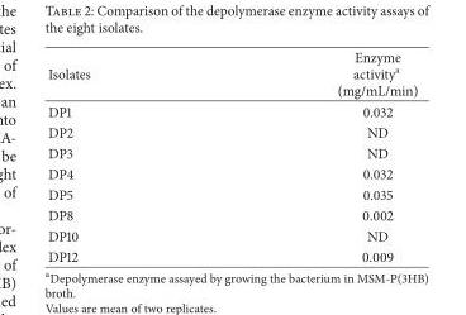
<table><thead><tr><td>Isolates</td><td>Enzyme activity<sup>a</sup> (mg/mL/min)</td></tr></thead><tbody><tr><td>DP1</td><td>0.032</td></tr><tr><td>DP2</td><td>ND</td></tr><tr><td>DP3</td><td>ND</td></tr><tr><td>DP4</td><td>0.032</td></tr><tr><td>DP5</td><td>0.035</td></tr><tr><td>DP8</td><td>0.002</td></tr><tr><td>DP10</td><td>ND</td></tr><tr><td>DP12</td><td>0.009</td></tr></tbody></table>